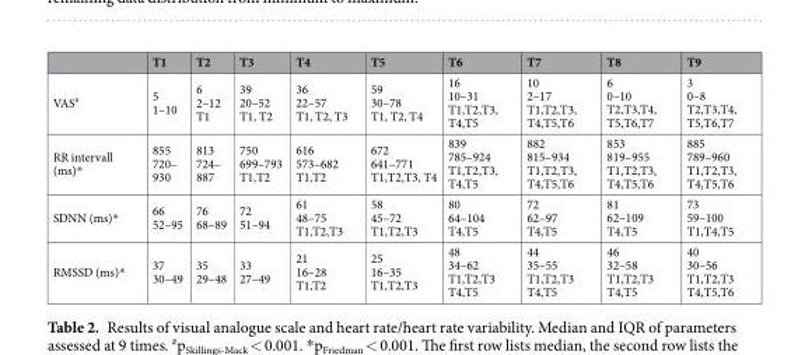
<table><thead><tr><td></td><td>T1</td><td>T2</td><td>T3</td><td>T4</td><td>T5</td><td>T6</td><td>T7</td><td>T8</td><td>T9</td></tr></thead><tbody><tr><td>VAS<sup>#</sup></td><td>5 1–10</td><td>6 2–12 T1</td><td>39 20–52 T1, T2</td><td>36 22–57 T1, T2, T3</td><td>59 30–78 T1, T2, T4</td><td>16 10–31 T1,T2,T3, T4,T5</td><td>10 2–17 T1,T2,T3, T4,T5,T6</td><td>6 0–10 T2,T3,T4, T5,T6,T7</td><td>3 0–8 T2,T3,T4, T5,T6,T7</td></tr><tr><td>RR intervall (ms)*</td><td>855 720– 930</td><td>813 724– 887</td><td>750 699–793 T1,T2</td><td>616 573–682 T1,T2</td><td>672 641–771 T1,T2,T3, T4</td><td>839 785–924 T1,T2,T3, T4,T5</td><td>882 815–934 T1,T2,T3, T4,T5,T6</td><td>853 819–955 T1,T2,T3, T4,T5,T6</td><td>885 789–960 T1,T2,T3, T4,T5,T6</td></tr><tr><td>SDNN (ms)*</td><td>66 52–95</td><td>76 68–89</td><td>72 51–94</td><td>61 48–75 T1,T2,T3</td><td>58 45–72 T1,T2,T3</td><td>80 64–104 T4,T5</td><td>72 62–97 T4,T5</td><td>81 62–109 T4,T5</td><td>73 59–100 T1,T4,T5</td></tr><tr><td>RMSSD (ms)*</td><td>37 30–49</td><td>35 29–48</td><td>33 27–49</td><td>21 16–28 T1,T2</td><td>25 16–35 T1,T2,T3</td><td>48 34–62 T1,T2,T3 T4,T5</td><td>44 35–55 T1,T2,T3 T4,T5</td><td>46 32–58 T1,T2,T3 T4,T5</td><td>40 30–56 T1,T2,T3 T4,T5,T6</td></tr></tbody></table>